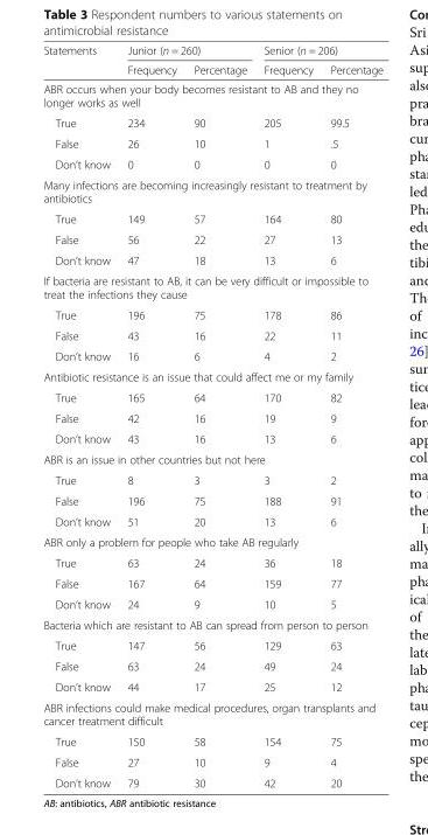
<table><thead><tr><td rowspan="2">Statements</td><td colspan="2">Junior (n = 260)</td><td colspan="2">Senior (n = 206)</td></tr><tr><td>Frequency</td><td>Percentage</td><td>Frequency</td><td>Percentage</td></tr></thead><tbody><tr><td colspan="5">ABR occurs when your body becomes resistant to AB and they no longer works as well</td></tr><tr><td>True</td><td>234</td><td>90</td><td>205</td><td>99.5</td></tr><tr><td>False</td><td>26</td><td>10</td><td>1</td><td>.5</td></tr><tr><td>Don’t know</td><td>0</td><td>0</td><td>0</td><td>0</td></tr><tr><td colspan="5">Many infections are becoming increasingly resistant to treatment by antibiotics</td></tr><tr><td>True</td><td>149</td><td>57</td><td>164</td><td>80</td></tr><tr><td>False</td><td>56</td><td>22</td><td>27</td><td>13</td></tr><tr><td>Don’t know</td><td>47</td><td>18</td><td>13</td><td>6</td></tr><tr><td colspan="5">If bacteria are resistant to AB, it can be very difficult or impossible to treat the infections they cause</td></tr><tr><td>True</td><td>196</td><td>75</td><td>178</td><td>86</td></tr><tr><td>False</td><td>43</td><td>16</td><td>22</td><td>11</td></tr><tr><td>Don’t know</td><td>16</td><td>6</td><td>4</td><td>2</td></tr><tr><td colspan="5">Antibiotic resistance is an issue that could affect me or my family</td></tr><tr><td>True</td><td>165</td><td>64</td><td>170</td><td>82</td></tr><tr><td>False</td><td>42</td><td>16</td><td>19</td><td>9</td></tr><tr><td>Don’t know</td><td>43</td><td>16</td><td>13</td><td>6</td></tr><tr><td colspan="5">ABR is an issue in other countries but not here</td></tr><tr><td>True</td><td>8</td><td>3</td><td>3</td><td>2</td></tr><tr><td>False</td><td>196</td><td>75</td><td>188</td><td>91</td></tr><tr><td>Don’t know</td><td>51</td><td>20</td><td>13</td><td>6</td></tr><tr><td colspan="5">ABR only a problem for people who take AB regularly</td></tr><tr><td>True</td><td>63</td><td>24</td><td>36</td><td>18</td></tr><tr><td>False</td><td>167</td><td>64</td><td>159</td><td>77</td></tr><tr><td>Don’t know</td><td>24</td><td>9</td><td>10</td><td>5</td></tr><tr><td colspan="5">Bacteria which are resistant to AB can spread from person to person</td></tr><tr><td>True</td><td>147</td><td>56</td><td>129</td><td>63</td></tr><tr><td>False</td><td>63</td><td>24</td><td>49</td><td>24</td></tr><tr><td>Don’t know</td><td>44</td><td>17</td><td>25</td><td>12</td></tr><tr><td colspan="5">ABR infections could make medical procedures, organ transplants and cancer treatment difficult</td></tr><tr><td>True</td><td>150</td><td>58</td><td>154</td><td>75</td></tr><tr><td>False</td><td>27</td><td>10</td><td>9</td><td>4</td></tr><tr><td>Don’t know</td><td>79</td><td>30</td><td>42</td><td>20</td></tr></tbody></table>